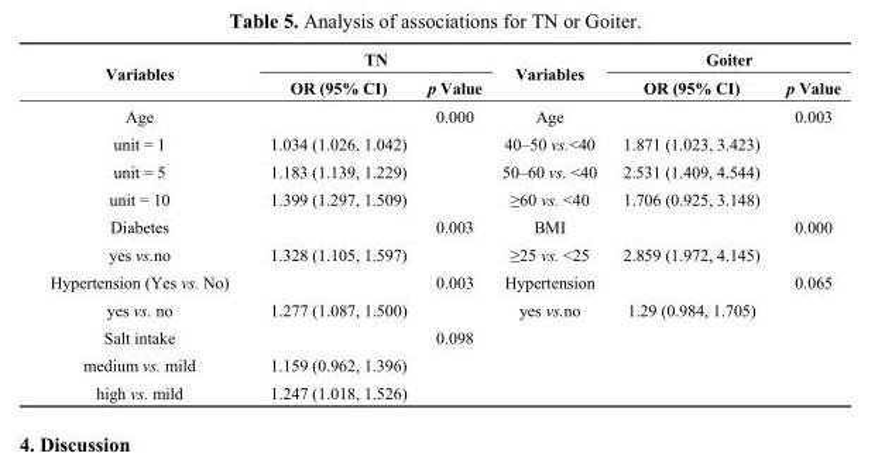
<table><thead><tr><td rowspan="2">Variables</td><td colspan="2">TN</td><td rowspan="2">Variables</td><td colspan="2">Goiter</td></tr><tr><td>OR (95% CI)</td><td>p Value</td><td>OR (95% CI)</td><td>p Value</td></tr></thead><tbody><tr><td>Age</td><td></td><td>0.000</td><td>Age</td><td></td><td>0.003</td></tr><tr><td>unit = 1</td><td>1.034 (1.026, 1.042)</td><td></td><td>40–50 vs.&lt;40</td><td>1.871 (1.023, 3.423)</td><td></td></tr><tr><td>unit = 5</td><td>1.183 (1.139, 1.229)</td><td></td><td>50–60 vs. &lt;40</td><td>2.531 (1.409, 4.544)</td><td></td></tr><tr><td>unit = 10</td><td>1.399 (1.297, 1.509)</td><td></td><td>≥60 vs. &lt;40</td><td>1.706 (0.925, 3.148)</td><td></td></tr><tr><td>Diabetes</td><td></td><td>0.003</td><td>BMI</td><td></td><td>0.000</td></tr><tr><td>yes vs.no</td><td>1.328 (1.105, 1.597)</td><td></td><td>≥25 vs. &lt;25</td><td>2.859 (1.972, 4.145)</td><td></td></tr><tr><td>Hypertension (Yes vs. No)</td><td></td><td>0.003</td><td>Hypertension</td><td></td><td>0.065</td></tr><tr><td>yes vs. no</td><td>1.277 (1.087, 1.500)</td><td></td><td>yes vs.no</td><td>1.29 (0.984, 1.705)</td><td></td></tr><tr><td>Salt intake</td><td></td><td>0.098</td><td rowspan="3"></td><td rowspan="3"></td><td></td></tr><tr><td>medium vs. mild</td><td>1.159 (0.962, 1.396)</td><td></td><td></td></tr><tr><td>high vs. mild</td><td>1.247 (1.018, 1.526)</td><td></td><td></td></tr></tbody></table>